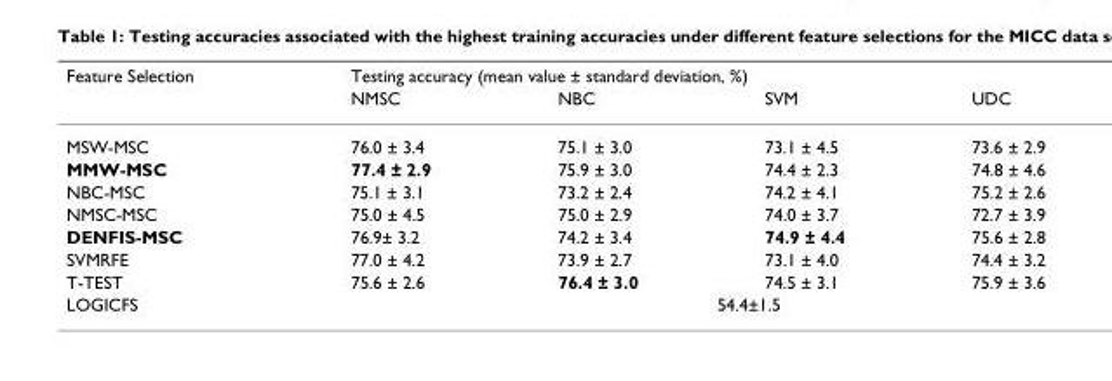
<table><thead><tr><td rowspan="2">Feature Selection</td><td colspan="4">Testing accuracy (mean value ± standard deviation, %)</td></tr><tr><td>NMSC</td><td>NBC</td><td>SVM</td><td>UDC</td></tr></thead><tbody><tr><td>MSW-MSC</td><td>76.0 ± 3.4</td><td>75.1 ± 3.0</td><td>73.1 ± 4.5</td><td>73.6 ± 2.9</td></tr><tr><td>MMW-MSC</td><td>77.4 ± 2.9</td><td>75.9 ± 3.0</td><td>74.4 ± 2.3</td><td>74.8 ± 4.6</td></tr><tr><td>NBC-MSC</td><td>75.1 ± 3.1</td><td>73.2 ± 2.4</td><td>74.2 ± 4.1</td><td>75.2 ± 2.6</td></tr><tr><td>NMSC-MSC</td><td>75.0 ± 4.5</td><td>75.0 ± 2.9</td><td>74.0 ± 3.7</td><td>72.7 ± 3.9</td></tr><tr><td>DENFIS-MSC</td><td>76.9± 3.2</td><td>74.2 ± 3.4</td><td>74.9 ± 4.4</td><td>75.6 ± 2.8</td></tr><tr><td>SVMRFE</td><td>77.0 ± 4.2</td><td>73.9 ± 2.7</td><td>73.1 ± 4.0</td><td>74.4 ± 3.2</td></tr><tr><td>T-TEST</td><td>75.6 ± 2.6</td><td>76.4 ± 3.0</td><td>74.5 ± 3.1</td><td>75.9 ± 3.6</td></tr><tr><td>LOGICFS</td><td colspan="4">54.4±1.5</td></tr></tbody></table>